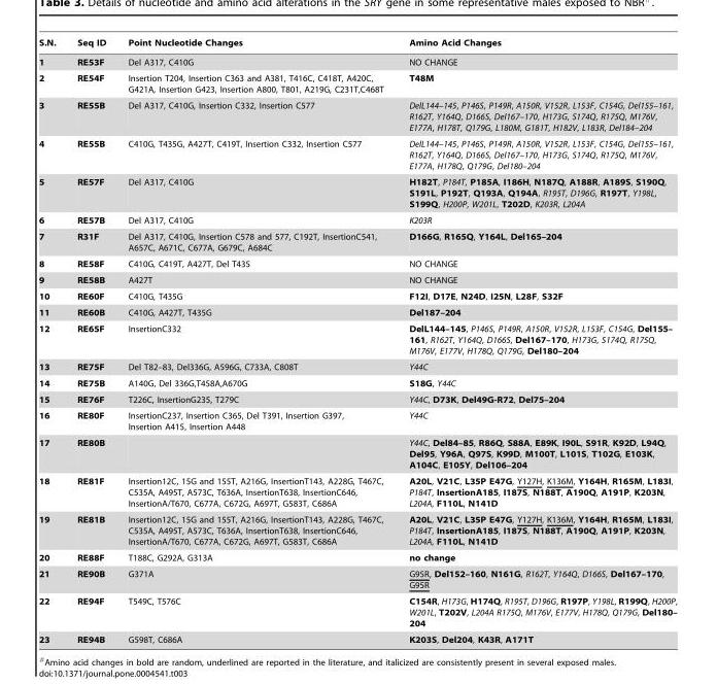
<table><thead><tr><td>S.N.</td><td>Seq ID</td><td>Point Nucleotide Changes</td><td>Amino Acid Changes</td></tr></thead><tbody><tr><td>1</td><td>RE53F</td><td>Del A317, C410G</td><td>NO CHANGE</td></tr><tr><td>2</td><td>RE54F</td><td>Insertion T204, Insertion C363 and A381, T416C, C418T, A420C, G421A, Insertion G423, Insertion A800, T801, A219G, C231T,C468T</td><td>T48M</td></tr><tr><td>3</td><td>RE55B</td><td>Del A317, C410G, Insertion C332, Insertion C577</td><td>DelL144–145, P146S, P149R, A150R, V152R, L153F, C154G, Del155–161, R162T, Y164Q, D166S, Del167–170, H173G, S174Q, R175Q, M176V, E177A, H178T, Q179G, L180M, G181T, H182V, L183R, Del184–204</td></tr><tr><td>4</td><td>RE55B</td><td>C410G, T435G, A427T, C419T, Insertion C332, Insertion C577</td><td>DelL144–145, P146S, P149R, A150R, V152R, L153F, C154G, Del155–161, R162T, Y164Q, D166S, Del167–170, H173G, S174Q, R175Q, M176V, E177A, H178Q, Q179G, Del180–204</td></tr><tr><td>5</td><td>RE57F</td><td>Del A317, C410G</td><td>H182T, P184T, P185A, I186H, N187Q, A188R, A189S, S190Q, S191L, P192T, Q193A, Q194A, R195T, D196G, R197T, Y198L, S199Q, H200P, W201L, T202D, K203R, L204A</td></tr><tr><td>6</td><td>RE57B</td><td>Del A317, C410G</td><td>K203R</td></tr><tr><td>7</td><td>R31F</td><td>Del A317, C410G, Insertion C578 and 577, C192T, InsertionC541, A657C, A671C, C677A, G679C, A684C</td><td>D166G, R165Q, Y164L, Del165–204</td></tr><tr><td>8</td><td>RE58F</td><td>C410G, C419T, A427T, Del T435</td><td>NO CHANGE</td></tr><tr><td>9</td><td>RE58B</td><td>A427T</td><td>NO CHANGE</td></tr><tr><td>10</td><td>RE60F</td><td>C410G, T435G</td><td>F12I, D17E, N24D, I25N, L28F, S32F</td></tr><tr><td>11</td><td>RE60B</td><td>C410G, A427T, T435G</td><td>Del187–204</td></tr><tr><td>12</td><td>RE65F</td><td>InsertionC332</td><td>DelL144–145, P146S, P149R, A150R, V152R, L153F, C154G, Del155– 161, R162T, Y164Q, D166S, Del167–170, H173G, S174Q, R175Q, M176V, E177V, H178Q, Q179G, Del180–204</td></tr><tr><td>13</td><td>RE75F</td><td>Del T82–83, Del336G, A596G, C733A, C808T</td><td>Y44C</td></tr><tr><td>14</td><td>RE75B</td><td>A140G, Del 336G,T458A,A670G</td><td>S18G, Y44C</td></tr><tr><td>15</td><td>RE76F</td><td>T226C, InsertionG235, T279C</td><td>Y44C, D73K, Del49G-R72, Del75–204</td></tr><tr><td>16</td><td>RE80F</td><td>InsertionC237, Insertion C365, Del T391, Insertion G397, Insertion A415, Insertion A448</td><td>Y44C</td></tr><tr><td>17</td><td>RE80B</td><td></td><td>Y44C, Del84–85, R86Q, S88A, E89K, I90L, S91R, K92D, L94Q, Del95, Y96A, Q97S, K99D, M100T, L101S, T102G, E103K, A104C, E105Y, Del106–204</td></tr><tr><td>18</td><td>RE81F</td><td>Insertion12C, 15G and 155T, A216G, InsertionT143, A228G, T467C, C535A, A495T, A573C, T636A, InsertionT638, InsertionC646, InsertionA/T670, C677A, C672G, A697T, G583T, C686A</td><td>A20L, V21C, L35P E47G, Y127H, K136M, Y164H, R165M, L183I, P184T, InsertionA185, I187S, N188T, A190Q, A191P, K203N, L204A, F110L, N141D</td></tr><tr><td>19</td><td>RE81B</td><td>Insertion12C, 15G and 155T, A216G, InsertionT143, A228G, T467C, C535A, A495T, A573C, T636A, InsertionT638, InsertionC646, InsertionA/T670, C677A, C672G, A697T, G583T, C686A</td><td>A20L, V21C, L35P E47G, Y127H, K136M, Y164H, R165M, L183I, P184T, InsertionA185, I187S, N188T, A190Q, A191P, K203N, L204A, F110L, N141D</td></tr><tr><td>20</td><td>RE88F</td><td>T188C, G292A, G313A</td><td>no change</td></tr><tr><td>21</td><td>RE90B</td><td>G371A</td><td>G95R, Del152–160, N161G, R162T, Y164Q, D166S, Del167–170, G95R</td></tr><tr><td>22</td><td>RE94F</td><td>T549C, T576C</td><td>C154R, H173G, H174Q, R195T, D196G, R197P, Y198L, R199Q, H200P, W201L, T202V, L204A R175Q, M176V, E177V, H178Q, Q179G, Del180– 204</td></tr><tr><td>23</td><td>RE94B</td><td>G598T, C686A</td><td>K203S, Del204, K43R, A171T</td></tr></tbody></table>